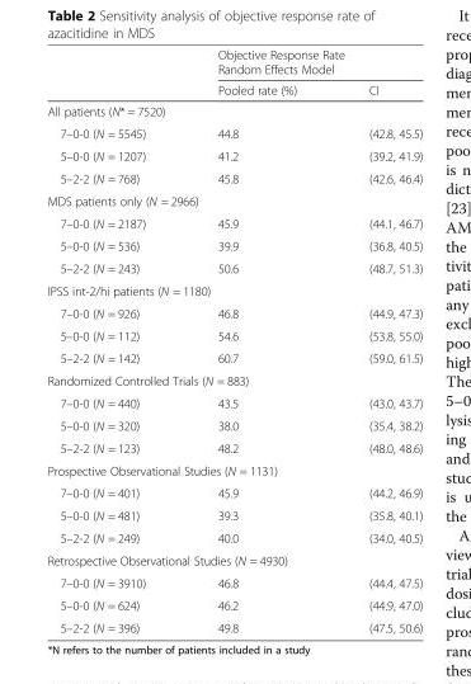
<table><thead><tr><td rowspan="2"></td><td colspan="2">Objective Response Rate Random Effects Model</td></tr><tr><td>Pooled rate (%)</td><td>CI</td></tr></thead><tbody><tr><td colspan="3">All patients (N* = 7520)</td></tr><tr><td>7–0-0 (N = 5545)</td><td>44.8</td><td>(42.8, 45.5)</td></tr><tr><td>5–0-0 (N = 1207)</td><td>41.2</td><td>(39.2, 41.9)</td></tr><tr><td>5–2-2 (N = 768)</td><td>45.8</td><td>(42.6, 46.4)</td></tr><tr><td colspan="3">MDS patients only (N = 2966)</td></tr><tr><td>7–0-0 (N = 2187)</td><td>45.9</td><td>(44.1, 46.7)</td></tr><tr><td>5–0-0 (N = 536)</td><td>39.9</td><td>(36.8, 40.5)</td></tr><tr><td>5–2-2 (N = 243)</td><td>50.6</td><td>(48.7, 51.3)</td></tr><tr><td colspan="3">IPSS int-2/hi patients (N = 1180)</td></tr><tr><td>7–0-0 (N = 926)</td><td>46.8</td><td>(44.9, 47.3)</td></tr><tr><td>5–0-0 (N = 112)</td><td>54.6</td><td>(53.8, 55.0)</td></tr><tr><td>5–2-2 (N = 142)</td><td>60.7</td><td>(59.0, 61.5)</td></tr><tr><td colspan="3">Randomized Controlled Trials (N = 883)</td></tr><tr><td>7–0-0 (N = 440)</td><td>43.5</td><td>(43.0, 43.7)</td></tr><tr><td>5–0-0 (N = 320)</td><td>38.0</td><td>(35.4, 38.2)</td></tr><tr><td>5–2-2 (N = 123)</td><td>48.2</td><td>(48.0, 48.6)</td></tr><tr><td colspan="3">Prospective Observational Studies (N = 1131)</td></tr><tr><td>7–0-0 (N = 401)</td><td>45.9</td><td>(44.2, 46.9)</td></tr><tr><td>5–0-0 (N = 481)</td><td>39.3</td><td>(35.8, 40.1)</td></tr><tr><td>5–2-2 (N = 249)</td><td>40.0</td><td>(34.0, 40.5)</td></tr><tr><td colspan="3">Retrospective Observational Studies (N = 4930)</td></tr><tr><td>7–0-0 (N = 3910)</td><td>46.8</td><td>(44.4, 47.5)</td></tr><tr><td>5–0-0 (N = 624)</td><td>46.2</td><td>(44.9, 47.0)</td></tr><tr><td>5–2-2 (N = 396)</td><td>49.8</td><td>(47.5, 50.6)</td></tr></tbody></table>